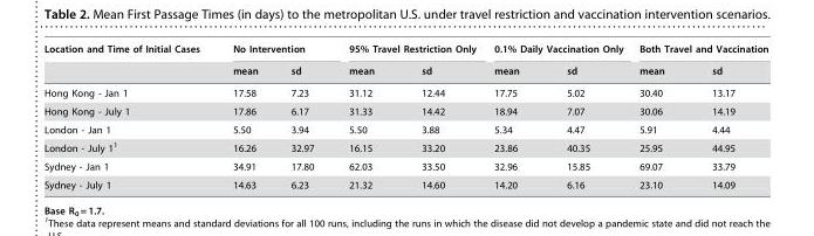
<table><thead><tr><td rowspan="2">Location and Time of Initial Cases</td><td colspan="2">No Intervention</td><td colspan="2">95% Travel Restriction Only</td><td colspan="2">0.1% Daily Vaccination Only</td><td colspan="2">Both Travel and Vaccination</td></tr><tr><td>mean</td><td>sd</td><td>mean</td><td>sd</td><td>mean</td><td>sd</td><td>mean</td><td>sd</td></tr></thead><tbody><tr><td>Hong Kong - Jan 1</td><td>17.58</td><td>7.23</td><td>31.12</td><td>12.44</td><td>17.75</td><td>5.02</td><td>30.40</td><td>13.17</td></tr><tr><td>Hong Kong - July 1</td><td>17.86</td><td>6.17</td><td>31.33</td><td>14.42</td><td>18.94</td><td>7.07</td><td>30.06</td><td>14.19</td></tr><tr><td>London - Jan 1</td><td>5.50</td><td>3.94</td><td>5.50</td><td>3.88</td><td>5.34</td><td>4.47</td><td>5.91</td><td>4.44</td></tr><tr><td>London - July 1<sup>1</sup></td><td>16.26</td><td>32.97</td><td>16.15</td><td>33.20</td><td>23.86</td><td>40.35</td><td>25.95</td><td>44.95</td></tr><tr><td>Sydney - Jan 1</td><td>34.91</td><td>17.80</td><td>62.03</td><td>33.50</td><td>32.96</td><td>15.85</td><td>69.07</td><td>33.79</td></tr><tr><td>Sydney - July 1</td><td>14.63</td><td>6.23</td><td>21.32</td><td>14.60</td><td>14.20</td><td>6.16</td><td>23.10</td><td>14.09</td></tr></tbody></table>